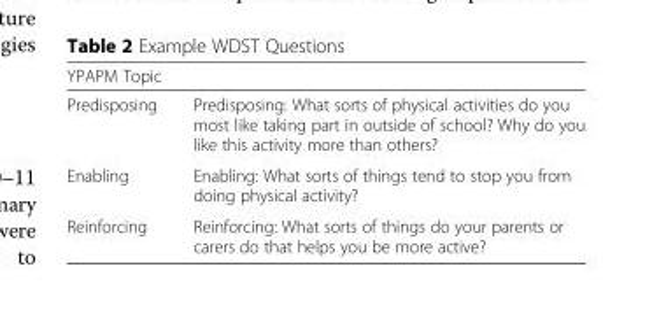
<table><thead><tr><td colspan="2">YPAPM Topic</td></tr><tr><td>Predisposing</td><td>Predisposing: What sorts of physical activities do you most like taking part in outside of school? Why do you like this activity more than others?</td></tr></thead><tbody><tr><td>Enabling</td><td>Enabling: What sorts of things tend to stop you from doing physical activity?</td></tr><tr><td>Reinforcing</td><td>Reinforcing: What sorts of things do your parents or carers do that helps you be more active?</td></tr></tbody></table>